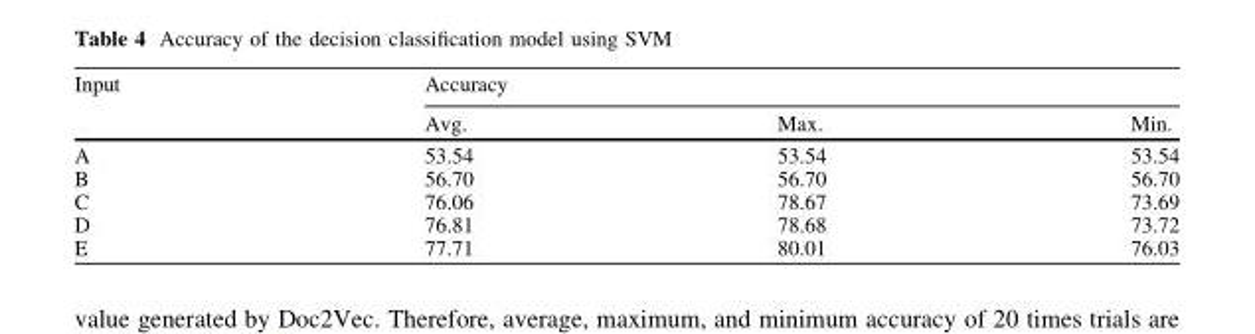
<table><thead><tr><td rowspan="2">Input</td><td colspan="3">Accuracy</td></tr><tr><td>Avg.</td><td>Max.</td><td>Min.</td></tr></thead><tbody><tr><td>A</td><td>53.54</td><td>53.54</td><td>53.54</td></tr><tr><td>B</td><td>56.70</td><td>56.70</td><td>56.70</td></tr><tr><td>C</td><td>76.06</td><td>78.67</td><td>73.69</td></tr><tr><td>D</td><td>76.81</td><td>78.68</td><td>73.72</td></tr><tr><td>E</td><td>77.71</td><td>80.01</td><td>76.03</td></tr></tbody></table>